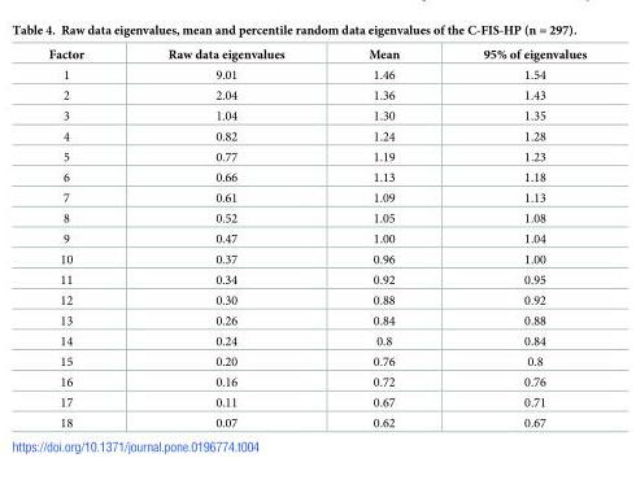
<table><thead><tr><td>Factor</td><td>Raw data eigenvalues</td><td>Mean</td><td>95% of eigenvalues</td></tr></thead><tbody><tr><td>1</td><td>9.01</td><td>1.46</td><td>1.54</td></tr><tr><td>2</td><td>2.04</td><td>1.36</td><td>1.43</td></tr><tr><td>3</td><td>1.04</td><td>1.30</td><td>1.35</td></tr><tr><td>4</td><td>0.82</td><td>1.24</td><td>1.28</td></tr><tr><td>5</td><td>0.77</td><td>1.19</td><td>1.23</td></tr><tr><td>6</td><td>0.66</td><td>1.13</td><td>1.18</td></tr><tr><td>7</td><td>0.61</td><td>1.09</td><td>1.13</td></tr><tr><td>8</td><td>0.52</td><td>1.05</td><td>1.08</td></tr><tr><td>9</td><td>0.47</td><td>1.00</td><td>1.04</td></tr><tr><td>10</td><td>0.37</td><td>0.96</td><td>1.00</td></tr><tr><td>11</td><td>0.34</td><td>0.92</td><td>0.95</td></tr><tr><td>12</td><td>0.30</td><td>0.88</td><td>0.92</td></tr><tr><td>13</td><td>0.26</td><td>0.84</td><td>0.88</td></tr><tr><td>14</td><td>0.24</td><td>0.8</td><td>0.84</td></tr><tr><td>15</td><td>0.20</td><td>0.76</td><td>0.8</td></tr><tr><td>16</td><td>0.16</td><td>0.72</td><td>0.76</td></tr><tr><td>17</td><td>0.11</td><td>0.67</td><td>0.71</td></tr><tr><td>18</td><td>0.07</td><td>0.62</td><td>0.67</td></tr></tbody></table>